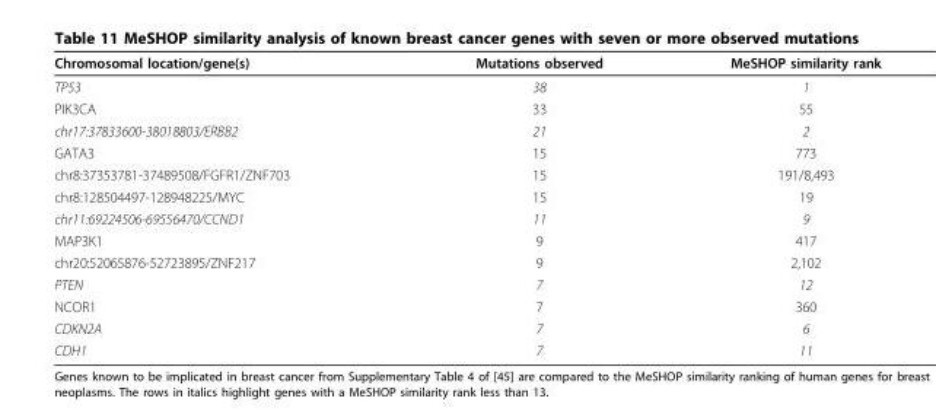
<table><thead><tr><td>Chromosomal location/gene(s)</td><td>Mutations observed</td><td>MeSHOP similarity rank</td></tr></thead><tbody><tr><td>TP53</td><td>38</td><td>1</td></tr><tr><td>PIK3CA</td><td>33</td><td>55</td></tr><tr><td>chr17:37833600-38018803/ERBB2</td><td>21</td><td>2</td></tr><tr><td>GATA3</td><td>15</td><td>773</td></tr><tr><td>chr8:37353781-37489508/FGFR1/ZNF703</td><td>15</td><td>191/8,493</td></tr><tr><td>chr8:128504497-128948225/MYC</td><td>15</td><td>19</td></tr><tr><td>chr11:69224506-69556470/CCND1</td><td>11</td><td>9</td></tr><tr><td>MAP3K1</td><td>9</td><td>417</td></tr><tr><td>chr20:52065876-52723895/ZNF217</td><td>9</td><td>2,102</td></tr><tr><td>PTEN</td><td>7</td><td>12</td></tr><tr><td>NCOR1</td><td>7</td><td>360</td></tr><tr><td>CDKN2A</td><td>7</td><td>6</td></tr><tr><td>CDH1</td><td>7</td><td>11</td></tr></tbody></table>